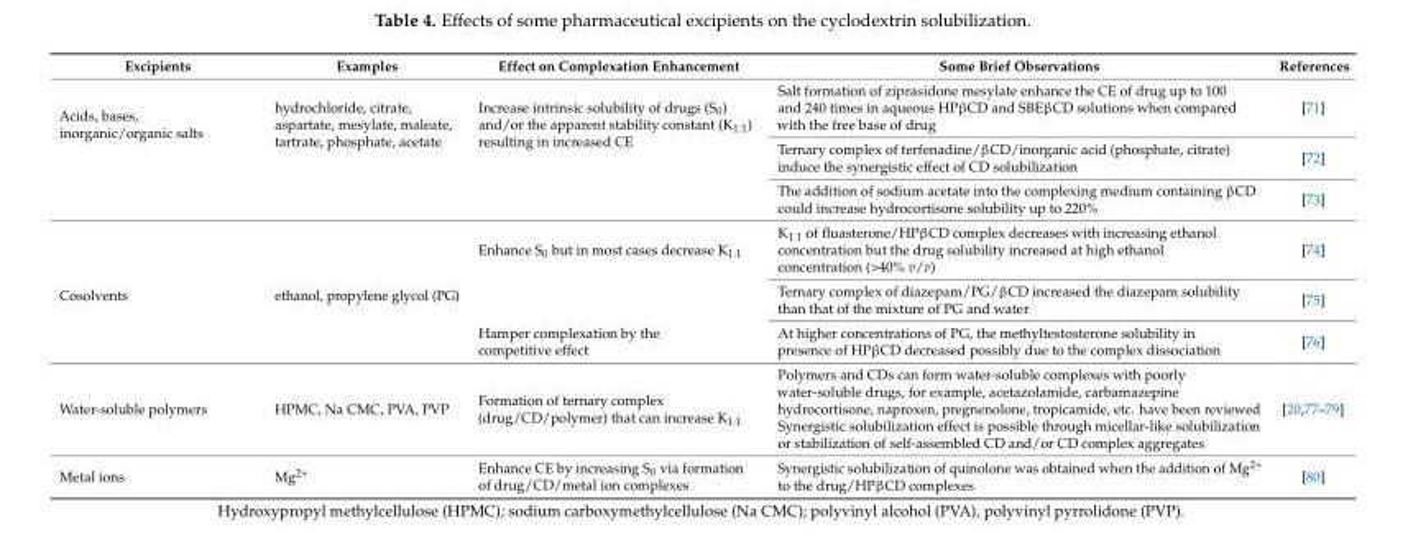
<table><thead><tr><td>Excipients</td><td>Examples</td><td>Effect on Complexation Enhancement</td><td>Some Brief Observations</td><td>References</td></tr></thead><tbody><tr><td rowspan="4">Acids, bases, inorganic/organic salts</td><td rowspan="3">hydrochloride, citrate, aspartate, mesylate, maleate, tartrate, phosphate, acetate</td><td rowspan="3">Increase intrinsic solubility of drugs (S<sub>0</sub>) and/or the apparent stability constant (K<sub>1:1</sub>) resulting in increased CE</td><td>Salt formation of ziprasidone mesylate enhance the CE of drug up to 100 and 240 times in aqueous HPβCD and SBEβCD solutions when compared with the free base of drug</td><td>[71]</td></tr><tr><td>Ternary complex of terfenadine/βCD/inorganic acid (phosphate, citrate) induce the synergistic effect of CD solubilization</td><td>[72]</td></tr><tr><td>The addition of sodium acetate into the complexing medium containing βCD could increase hydrocortisone solubility up to 220%</td><td>[73]</td></tr><tr><td></td><td>Enhance S<sub>0</sub> but in most cases decrease K<sub>1:1</sub></td><td>K<sub>1:1</sub> of fluasterone/HPβCD complex decreases with increasing ethanol concentration but the drug solubility increased at high ethanol concentration (&gt;40% v/v)</td><td>[74]</td></tr><tr><td rowspan="2">Cosolvents</td><td>ethanol, propylene glycol (PG)</td><td></td><td>Ternary complex of diazepam/PG/βCD increased the diazepam solubility than that of the mixture of PG and water</td><td>[75]</td></tr><tr><td></td><td>Hamper complexation by the competitive effect</td><td>At higher concentrations of PG, the methyltestosterone solubility in presence of HPβCD decreased possibly due to the complex dissociation</td><td>[76]</td></tr><tr><td>Water-soluble polymers</td><td>HPMC, Na CMC, PVA, PVP</td><td>Formation of ternary complex (drug/CD/polymer) that can increase K<sub>1:1</sub></td><td>Polymers and CDs can form water-soluble complexes with poorly water-soluble drugs, for example, acetazolamide, carbamazepine hydrocortisone, naproxen, pregnenolone, tropicamide, etc. have been reviewed Synergistic solubilization effect is possible through micellar-like solubilization or stabilization of self-assembled CD and/or CD complex aggregates</td><td>[20,77–79]</td></tr><tr><td>Metal ions</td><td>Mg<sup>2+</sup></td><td>Enhance CE by increasing S<sub>0</sub> via formation of drug/CD/metal ion complexes</td><td>Synergistic solubilization of quinolone was obtained when the addition of Mg<sup>2+</sup> to the drug/HPβCD complexes</td><td>[80]</td></tr></tbody></table>